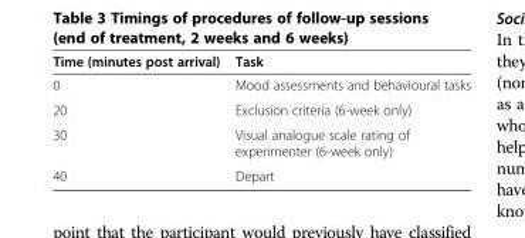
<table><thead><tr><td>Time (minutes post arrival)</td><td>Task</td></tr></thead><tbody><tr><td>0</td><td>Mood assessments and behavioural tasks</td></tr><tr><td>20</td><td>Exclusion criteria (6-week only)</td></tr><tr><td>30</td><td>Visual analogue scale rating of experimenter (6-week only)</td></tr><tr><td>40</td><td>Depart</td></tr></tbody></table>